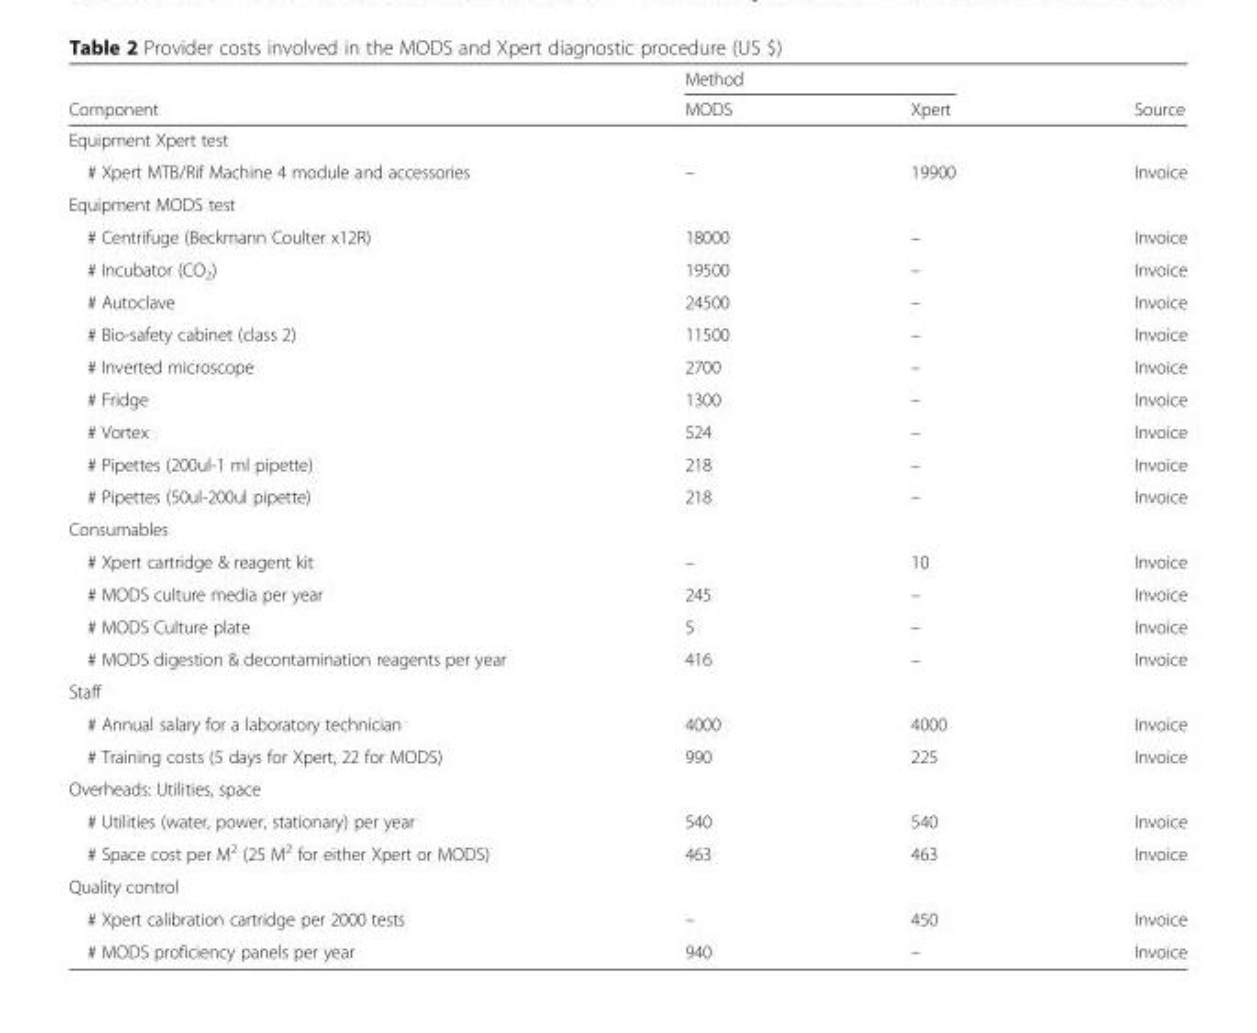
<table><thead><tr><td rowspan="2">Component</td><td colspan="2">Method</td><td rowspan="2">Source</td></tr><tr><td>MODS</td><td>Xpert</td></tr></thead><tbody><tr><td colspan="4">Equipment Xpert test</td></tr><tr><td># Xpert MTB/Rif Machine 4 module and accessories</td><td>–</td><td>19900</td><td>Invoice</td></tr><tr><td colspan="4">Equipment MODS test</td></tr><tr><td># Centrifuge (Beckmann Coulter x12R)</td><td>18000</td><td>–</td><td>Invoice</td></tr><tr><td># Incubator (CO<sub>2</sub>)</td><td>19500</td><td>–</td><td>Invoice</td></tr><tr><td># Autoclave</td><td>24500</td><td>–</td><td>Invoice</td></tr><tr><td># Bio-safety cabinet (class 2)</td><td>11500</td><td>–</td><td>Invoice</td></tr><tr><td># Inverted microscope</td><td>2700</td><td>–</td><td>Invoice</td></tr><tr><td># Fridge</td><td>1300</td><td>–</td><td>Invoice</td></tr><tr><td># Vortex</td><td>524</td><td>–</td><td>Invoice</td></tr><tr><td># Pipettes (200ul-1 ml pipette)</td><td>218</td><td>–</td><td>Invoice</td></tr><tr><td># Pipettes (50ul-200ul pipette)</td><td>218</td><td>–</td><td>Invoice</td></tr><tr><td colspan="4">Consumables</td></tr><tr><td># Xpert cartridge &amp; reagent kit</td><td>–</td><td>10</td><td>Invoice</td></tr><tr><td># MODS culture media per year</td><td>245</td><td>–</td><td>Invoice</td></tr><tr><td># MODS Culture plate</td><td>5</td><td>–</td><td>Invoice</td></tr><tr><td># MODS digestion &amp; decontamination reagents per year</td><td>416</td><td>–</td><td>Invoice</td></tr><tr><td colspan="4">Staff</td></tr><tr><td># Annual salary for a laboratory technician</td><td>4000</td><td>4000</td><td>Invoice</td></tr><tr><td># Training costs (5 days for Xpert, 22 for MODS)</td><td>990</td><td>225</td><td>Invoice</td></tr><tr><td colspan="4">Overheads: Utilities, space</td></tr><tr><td># Utilities (water, power, stationary) per year</td><td>540</td><td>540</td><td>Invoice</td></tr><tr><td># Space cost per M<sup>2</sup> (25 M<sup>2</sup> for either Xpert or MODS)</td><td>463</td><td>463</td><td>Invoice</td></tr><tr><td colspan="4">Quality control</td></tr><tr><td># Xpert calibration cartridge per 2000 tests</td><td>–</td><td>450</td><td>Invoice</td></tr><tr><td># MODS proficiency panels per year</td><td>940</td><td>–</td><td>Invoice</td></tr></tbody></table>